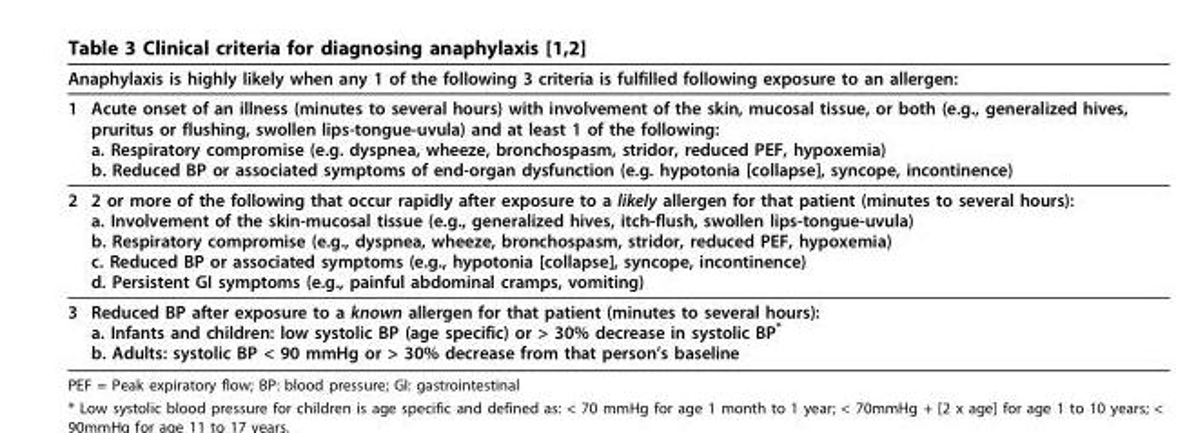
<table><thead><tr><td colspan="2">Anaphylaxis is highly likely when any 1 of the following 3 criteria is fulfilled following exposure to an allergen:</td></tr><tr><td>1</td><td>Acute onset of an illness (minutes to several hours) with involvement of the skin, mucosal tissue, or both (e.g., generalized hives, pruritus or flushing, swollen lips-tongue-uvula) and at least 1 of the following: a. Respiratory compromise (e.g. dyspnea, wheeze, bronchospasm, stridor, reduced PEF, hypoxemia) b. Reduced BP or associated symptoms of end-organ dysfunction (e.g. hypotonia [collapse], syncope, incontinence)</td></tr></thead><tbody><tr><td>2</td><td>2 or more of the following that occur rapidly after exposure to a likely allergen for that patient (minutes to several hours): a. Involvement of the skin-mucosal tissue (e.g., generalized hives, itch-flush, swollen lips-tongue-uvula) b. Respiratory compromise (e.g., dyspnea, wheeze, bronchospasm, stridor, reduced PEF, hypoxemia) c. Reduced BP or associated symptoms (e.g., hypotonia [collapse], syncope, incontinence) d. Persistent GI symptoms (e.g., painful abdominal cramps, vomiting)</td></tr><tr><td>3</td><td>Reduced BP after exposure to a known allergen for that patient (minutes to several hours): a. Infants and children: low systolic BP (age specific) or &gt; 30% decrease in systolic BP* b. Adults: systolic BP &lt; 90 mmHg or &gt; 30% decrease from that person’s baseline</td></tr></tbody></table>